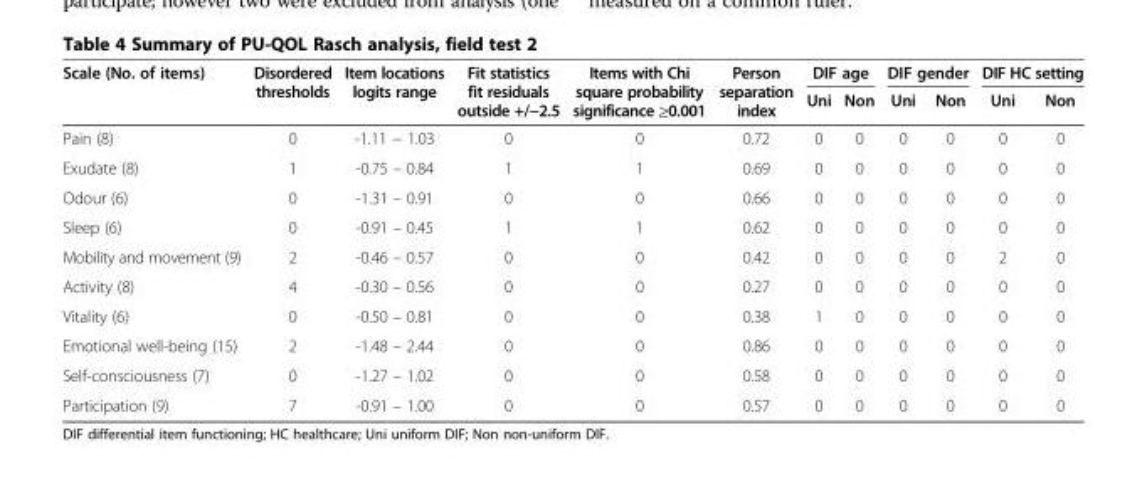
<table><thead><tr><td rowspan="2">Scale (No. of items)</td><td rowspan="2">Disordered thresholds</td><td rowspan="2">Item locations logits range</td><td rowspan="2">Fit statistics fit residuals outside +/−2.5</td><td rowspan="2">Items with Chi square probability significance ≥0.001</td><td rowspan="2">Person separation index</td><td colspan="2">DIF age</td><td colspan="2">DIF gender</td><td colspan="2">DIF HC setting</td></tr><tr><td>Uni</td><td>Non</td><td>Uni</td><td>Non</td><td>Uni</td><td>Non</td></tr></thead><tbody><tr><td>Pain (8)</td><td>0</td><td>-1.11 − 1.03</td><td>0</td><td>0</td><td>0.72</td><td>0</td><td>0</td><td>0</td><td>0</td><td>0</td><td>0</td></tr><tr><td>Exudate (8)</td><td>1</td><td>-0.75 – 0.84</td><td>1</td><td>1</td><td>0.69</td><td>0</td><td>0</td><td>0</td><td>0</td><td>0</td><td>0</td></tr><tr><td>Odour (6)</td><td>0</td><td>-1.31 – 0.91</td><td>0</td><td>0</td><td>0.66</td><td>0</td><td>0</td><td>0</td><td>0</td><td>0</td><td>0</td></tr><tr><td>Sleep (6)</td><td>0</td><td>-0.91 – 0.45</td><td>1</td><td>1</td><td>0.62</td><td>0</td><td>0</td><td>0</td><td>0</td><td>0</td><td>0</td></tr><tr><td>Mobility and movement (9)</td><td>2</td><td>-0.46 – 0.57</td><td>0</td><td>0</td><td>0.42</td><td>0</td><td>0</td><td>0</td><td>0</td><td>2</td><td>0</td></tr><tr><td>Activity (8)</td><td>4</td><td>-0.30 – 0.56</td><td>0</td><td>0</td><td>0.27</td><td>0</td><td>0</td><td>0</td><td>0</td><td>0</td><td>0</td></tr><tr><td>Vitality (6)</td><td>0</td><td>-0.50 – 0.81</td><td>0</td><td>0</td><td>0.38</td><td>1</td><td>0</td><td>0</td><td>0</td><td>0</td><td>0</td></tr><tr><td>Emotional well-being (15)</td><td>2</td><td>-1.48 – 2.44</td><td>0</td><td>0</td><td>0.86</td><td>0</td><td>0</td><td>0</td><td>0</td><td>0</td><td>0</td></tr><tr><td>Self-consciousness (7)</td><td>0</td><td>-1.27 – 1.02</td><td>0</td><td>0</td><td>0.58</td><td>0</td><td>0</td><td>0</td><td>0</td><td>0</td><td>0</td></tr><tr><td>Participation (9)</td><td>7</td><td>-0.91 – 1.00</td><td>0</td><td>0</td><td>0.57</td><td>0</td><td>0</td><td>0</td><td>0</td><td>0</td><td>0</td></tr></tbody></table>